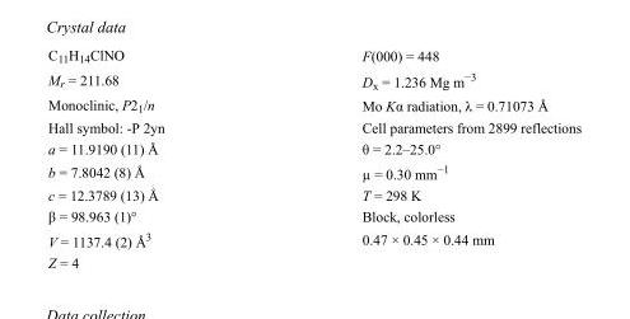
<table><tbody><tr><td>C<sub>11</sub>H<sub>14</sub>ClNO</td><td>F(000) = 448</td></tr><tr><td>M<sub>r</sub> = 211.68</td><td>D<sub>x</sub> = 1.236 Mg m<sup>−3</sup></td></tr><tr><td>Monoclinic, P2<sub>1</sub>/n</td><td>Mo Kα radiation, λ = 0.71073 Å</td></tr><tr><td>Hall symbol: -P 2yn</td><td>Cell parameters from 2899 reflections</td></tr><tr><td>a = 11.9190 (11) Å</td><td>θ = 2.2–25.0°</td></tr><tr><td>b = 7.8042 (8) Å</td><td>µ = 0.30 mm<sup>−1</sup></td></tr><tr><td>c = 12.3789 (13) Å</td><td>T = 298 K</td></tr><tr><td>β = 98.963 (1)°</td><td>Block, colorless</td></tr><tr><td>V = 1137.4 (2) Å<sup>3</sup></td><td>0.47 × 0.45 × 0.44 mm</td></tr><tr><td>Z = 4</td><td></td></tr></tbody></table>